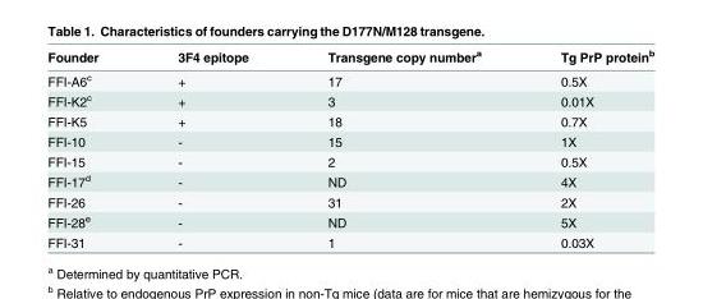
<table><thead><tr><td>Founder</td><td>3F4 epitope</td><td>Transgene copy number<sup>a</sup></td><td>Tg PrP protein<sup>b</sup></td></tr></thead><tbody><tr><td>FFI-A6<sup>c</sup></td><td>+</td><td>17</td><td>0.5X</td></tr><tr><td>FFI-K2<sup>c</sup></td><td>+</td><td>3</td><td>0.01X</td></tr><tr><td>FFI-K5</td><td>+</td><td>18</td><td>0.7X</td></tr><tr><td>FFI-10</td><td>-</td><td>15</td><td>1X</td></tr><tr><td>FFI-15</td><td>-</td><td>2</td><td>0.5X</td></tr><tr><td>FFI-17<sup>d</sup></td><td>-</td><td>ND</td><td>4X</td></tr><tr><td>FFI-26</td><td>-</td><td>31</td><td>2X</td></tr><tr><td>FFI-28<sup>e</sup></td><td>-</td><td>ND</td><td>5X</td></tr><tr><td>FFI-31</td><td>-</td><td>1</td><td>0.03X</td></tr></tbody></table>